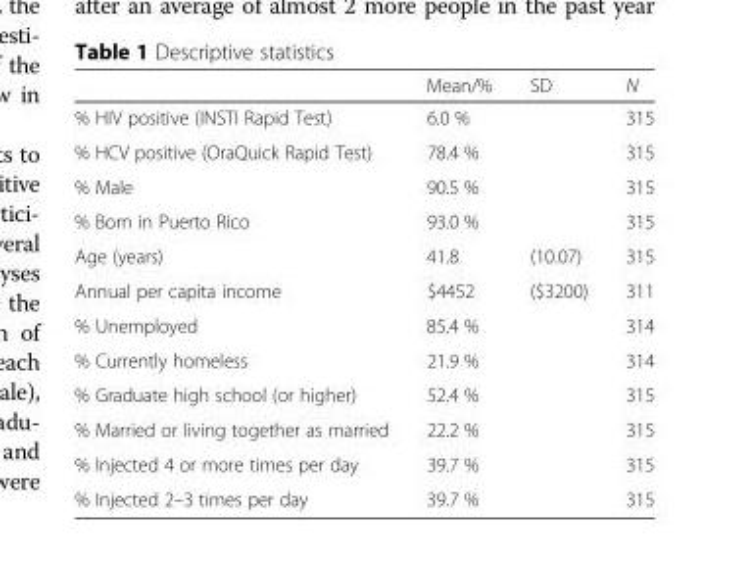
<table><thead><tr><td></td><td>Mean/%</td><td>SD</td><td>N</td></tr></thead><tbody><tr><td>% HIV positive (INSTI Rapid Test)</td><td>6.0 %</td><td></td><td>315</td></tr><tr><td>% HCV positive (OraQuick Rapid Test)</td><td>78.4 %</td><td></td><td>315</td></tr><tr><td>% Male</td><td>90.5 %</td><td></td><td>315</td></tr><tr><td>% Born in Puerto Rico</td><td>93.0 %</td><td></td><td>315</td></tr><tr><td>Age (years)</td><td>41.8</td><td>(10.07)</td><td>315</td></tr><tr><td>Annual per capita income</td><td>$4452</td><td>($3200)</td><td>311</td></tr><tr><td>% Unemployed</td><td>85.4 %</td><td></td><td>314</td></tr><tr><td>% Currently homeless</td><td>21.9 %</td><td></td><td>314</td></tr><tr><td>% Graduate high school (or higher)</td><td>52.4 %</td><td></td><td>315</td></tr><tr><td>% Married or living together as married</td><td>22.2 %</td><td></td><td>315</td></tr><tr><td>% Injected 4 or more times per day</td><td>39.7 %</td><td></td><td>315</td></tr><tr><td>% Injected 2–3 times per day</td><td>39.7 %</td><td></td><td>315</td></tr></tbody></table>